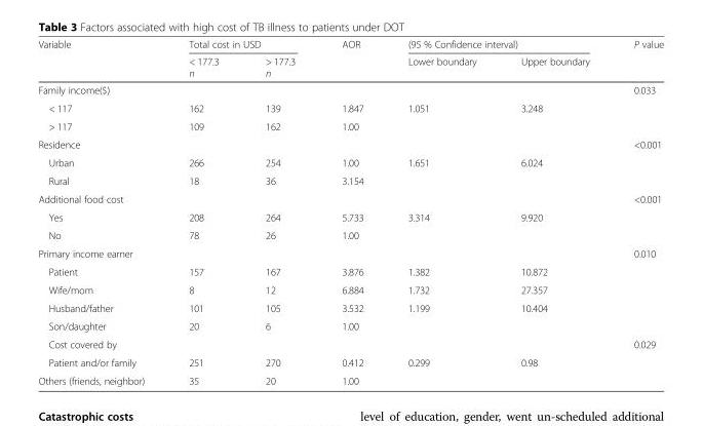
<table><thead><tr><td rowspan="2">Variable</td><td colspan="2">Total cost in USD</td><td rowspan="2">AOR</td><td colspan="2">(95 % Confidence interval)</td><td rowspan="2">P value</td></tr><tr><td>&lt; 177.3 n</td><td>&gt; 177.3 n</td><td>Lower boundary</td><td>Upper boundary</td></tr></thead><tbody><tr><td>Family income($)</td><td></td><td></td><td></td><td></td><td></td><td>0.033</td></tr><tr><td>&lt; 117</td><td>162</td><td>139</td><td>1.847</td><td>1.051</td><td>3.248</td><td></td></tr><tr><td>&gt; 117</td><td>109</td><td>162</td><td>1.00</td><td></td><td></td><td></td></tr><tr><td>Residence</td><td></td><td></td><td></td><td></td><td></td><td>&lt;0.001</td></tr><tr><td>Urban</td><td>266</td><td>254</td><td>1.00</td><td>1.651</td><td>6.024</td><td></td></tr><tr><td>Rural</td><td>18</td><td>36</td><td>3.154</td><td></td><td></td><td></td></tr><tr><td>Additional food cost</td><td></td><td></td><td></td><td></td><td></td><td>&lt;0.001</td></tr><tr><td>Yes</td><td>208</td><td>264</td><td>5.733</td><td>3.314</td><td>9.920</td><td></td></tr><tr><td>No</td><td>78</td><td>26</td><td>1.00</td><td></td><td></td><td></td></tr><tr><td>Primary income earner</td><td></td><td></td><td></td><td></td><td></td><td>0.010</td></tr><tr><td>Patient</td><td>157</td><td>167</td><td>3.876</td><td>1.382</td><td>10.872</td><td></td></tr><tr><td>Wife/mom</td><td>8</td><td>12</td><td>6.884</td><td>1.732</td><td>27.357</td><td></td></tr><tr><td>Husband/father</td><td>101</td><td>105</td><td>3.532</td><td>1.199</td><td>10.404</td><td></td></tr><tr><td>Son/daughter</td><td>20</td><td>6</td><td>1.00</td><td></td><td></td><td></td></tr><tr><td>Cost covered by</td><td></td><td></td><td></td><td></td><td></td><td>0.029</td></tr><tr><td>Patient and/or family</td><td>251</td><td>270</td><td>0.412</td><td>0.299</td><td>0.98</td><td></td></tr><tr><td>Others (friends, neighbor)</td><td>35</td><td>20</td><td>1.00</td><td></td><td></td><td></td></tr></tbody></table>